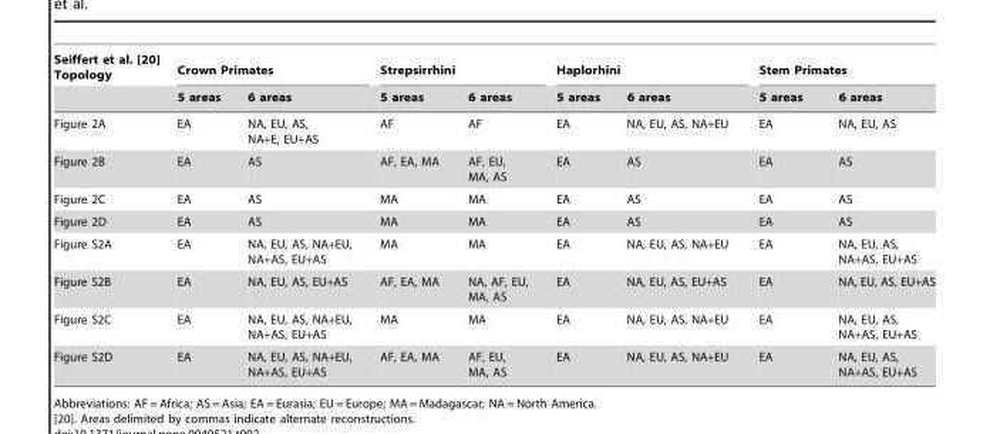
<table><thead><tr><td rowspan="2">Seiffert et al. [20] Topology</td><td colspan="2">Crown Primates</td><td colspan="2">Strepsirrhini</td><td colspan="2">Haplorhini</td><td colspan="2">Stem Primates</td></tr><tr><td>5 areas</td><td>6 areas</td><td>5 areas</td><td>6 areas</td><td>5 areas</td><td>6 areas</td><td>5 areas</td><td>6 areas</td></tr></thead><tbody><tr><td>Figure 2A</td><td>EA</td><td>NA, EU, AS, NA+E, EU+AS</td><td>AF</td><td>AF</td><td>EA</td><td>NA, EU, AS, NA+EU</td><td>EA</td><td>NA, EU, AS</td></tr><tr><td>Figure 2B</td><td>EA</td><td>AS</td><td>AF, EA, MA</td><td>AF, EU, MA, AS</td><td>EA</td><td>AS</td><td>EA</td><td>AS</td></tr><tr><td>Figure 2C</td><td>EA</td><td>AS</td><td>MA</td><td>MA</td><td>EA</td><td>AS</td><td>EA</td><td>AS</td></tr><tr><td>Figure 2D</td><td>EA</td><td>AS</td><td>MA</td><td>MA</td><td>EA</td><td>AS</td><td>EA</td><td>AS</td></tr><tr><td>Figure S2A</td><td>EA</td><td>NA, EU, AS, NA+EU, NA+AS, EU+AS</td><td>MA</td><td>MA</td><td>EA</td><td>NA, EU, AS, NA+EU</td><td>EA</td><td>NA, EU, AS, NA+AS, EU+AS</td></tr><tr><td>Figure S2B</td><td>EA</td><td>NA, EU, AS, EU+AS</td><td>AF, EA, MA</td><td>NA, AF, EU, MA, AS</td><td>EA</td><td>NA, EU, AS, EU+AS</td><td>EA</td><td>NA, EU, AS, EU+AS</td></tr><tr><td>Figure S2C</td><td>EA</td><td>NA, EU, AS, NA+EU, NA+AS, EU+AS</td><td>MA</td><td>MA</td><td>EA</td><td>NA, EU, AS, NA+EU</td><td>EA</td><td>NA, EU, AS, NA+AS, EU+AS</td></tr><tr><td>Figure S2D</td><td>EA</td><td>NA, EU, AS, NA+EU, NA+AS, EU+AS</td><td>AF, EA, MA</td><td>AF, EU, MA, AS</td><td>EA</td><td>NA, EU, AS, NA+EU</td><td>EA</td><td>NA, EU, AS, NA+AS, EU+AS</td></tr></tbody></table>